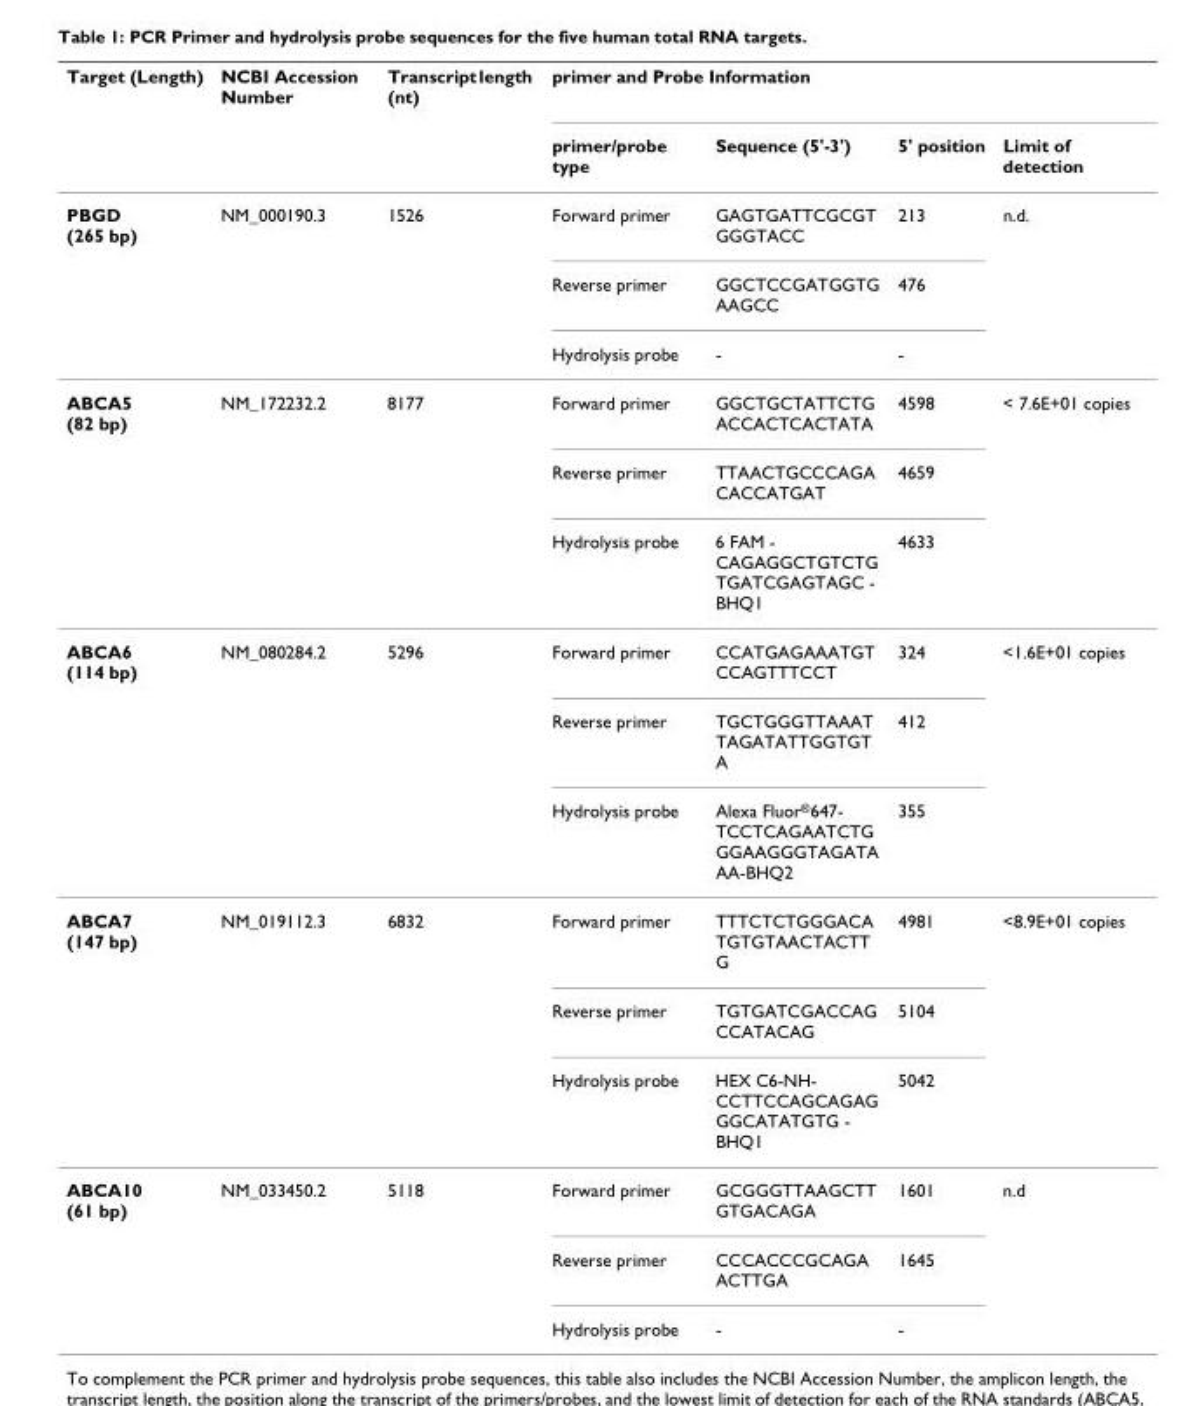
<table><thead><tr><td rowspan="2">Target (Length)</td><td rowspan="2">NCBI Accession Number</td><td rowspan="2">Transcript length (nt)</td><td colspan="4">primer and Probe Information</td></tr><tr><td>primer/probe type</td><td>Sequence (5&#x27;-3&#x27;)</td><td>5&#x27; position</td><td>Limit of detection</td></tr></thead><tbody><tr><td rowspan="3">PBGD (265 bp)</td><td>NM_000190.3</td><td>1526</td><td>Forward primer</td><td>GAGTGATTCGCGT GGGTACC</td><td>213</td><td>n.d.</td></tr><tr><td></td><td></td><td>Reverse primer</td><td>GGCTCCGATGGTG AAGCC</td><td>476</td><td></td></tr><tr><td></td><td></td><td>Hydrolysis probe</td><td>-</td><td>-</td><td></td></tr><tr><td rowspan="3">ABCA5 (82 bp)</td><td>NM_172232.2</td><td>8177</td><td>Forward primer</td><td>GGCTGCTATTCTG ACCACTCACTATA</td><td>4598</td><td>&lt; 7.6E+01 copies</td></tr><tr><td></td><td></td><td>Reverse primer</td><td>TTAACTGCCCAGA CACCATGAT</td><td>4659</td><td></td></tr><tr><td></td><td></td><td>Hydrolysis probe</td><td>6 FAM - CAGAGGCTGTCTG TGATCGAGTAGC - BHQ1</td><td>4633</td><td></td></tr><tr><td rowspan="3">ABCA6 (114 bp)</td><td>NM_080284.2</td><td>5296</td><td>Forward primer</td><td>CCATGAGAAATGT CCAGTTTCCT</td><td>324</td><td>&lt;1.6E+01 copies</td></tr><tr><td></td><td></td><td>Reverse primer</td><td>TGCTGGGTTAAAT TAGATATTGGTGT A</td><td>412</td><td></td></tr><tr><td></td><td></td><td>Hydrolysis probe</td><td>Alexa Fluor<sup>®</sup>647- TCCTCAGAATCTG GGAAGGGTAGATA AA-BHQ2</td><td>355</td><td></td></tr><tr><td rowspan="3">ABCA7 (147 bp)</td><td>NM_019112.3</td><td>6832</td><td>Forward primer</td><td>TTTCTCTGGGACA TGTGTAACTACTT G</td><td>4981</td><td>&lt;8.9E+01 copies</td></tr><tr><td></td><td></td><td>Reverse primer</td><td>TGTGATCGACCAG CCATACAG</td><td>5104</td><td></td></tr><tr><td></td><td></td><td>Hydrolysis probe</td><td>HEX C6-NH- CCTTCCAGCAGAG GGCATATGTG - BHQ1</td><td>5042</td><td></td></tr><tr><td rowspan="3">ABCA10 (61 bp)</td><td>NM_033450.2</td><td>5118</td><td>Forward primer</td><td>GCGGGTTAAGCTT GTGACAGA</td><td>1601</td><td>n.d</td></tr><tr><td></td><td></td><td>Reverse primer</td><td>CCCACCCGCAGA ACTTGA</td><td>1645</td><td></td></tr><tr><td></td><td></td><td>Hydrolysis probe</td><td>-</td><td>-</td><td></td></tr></tbody></table>